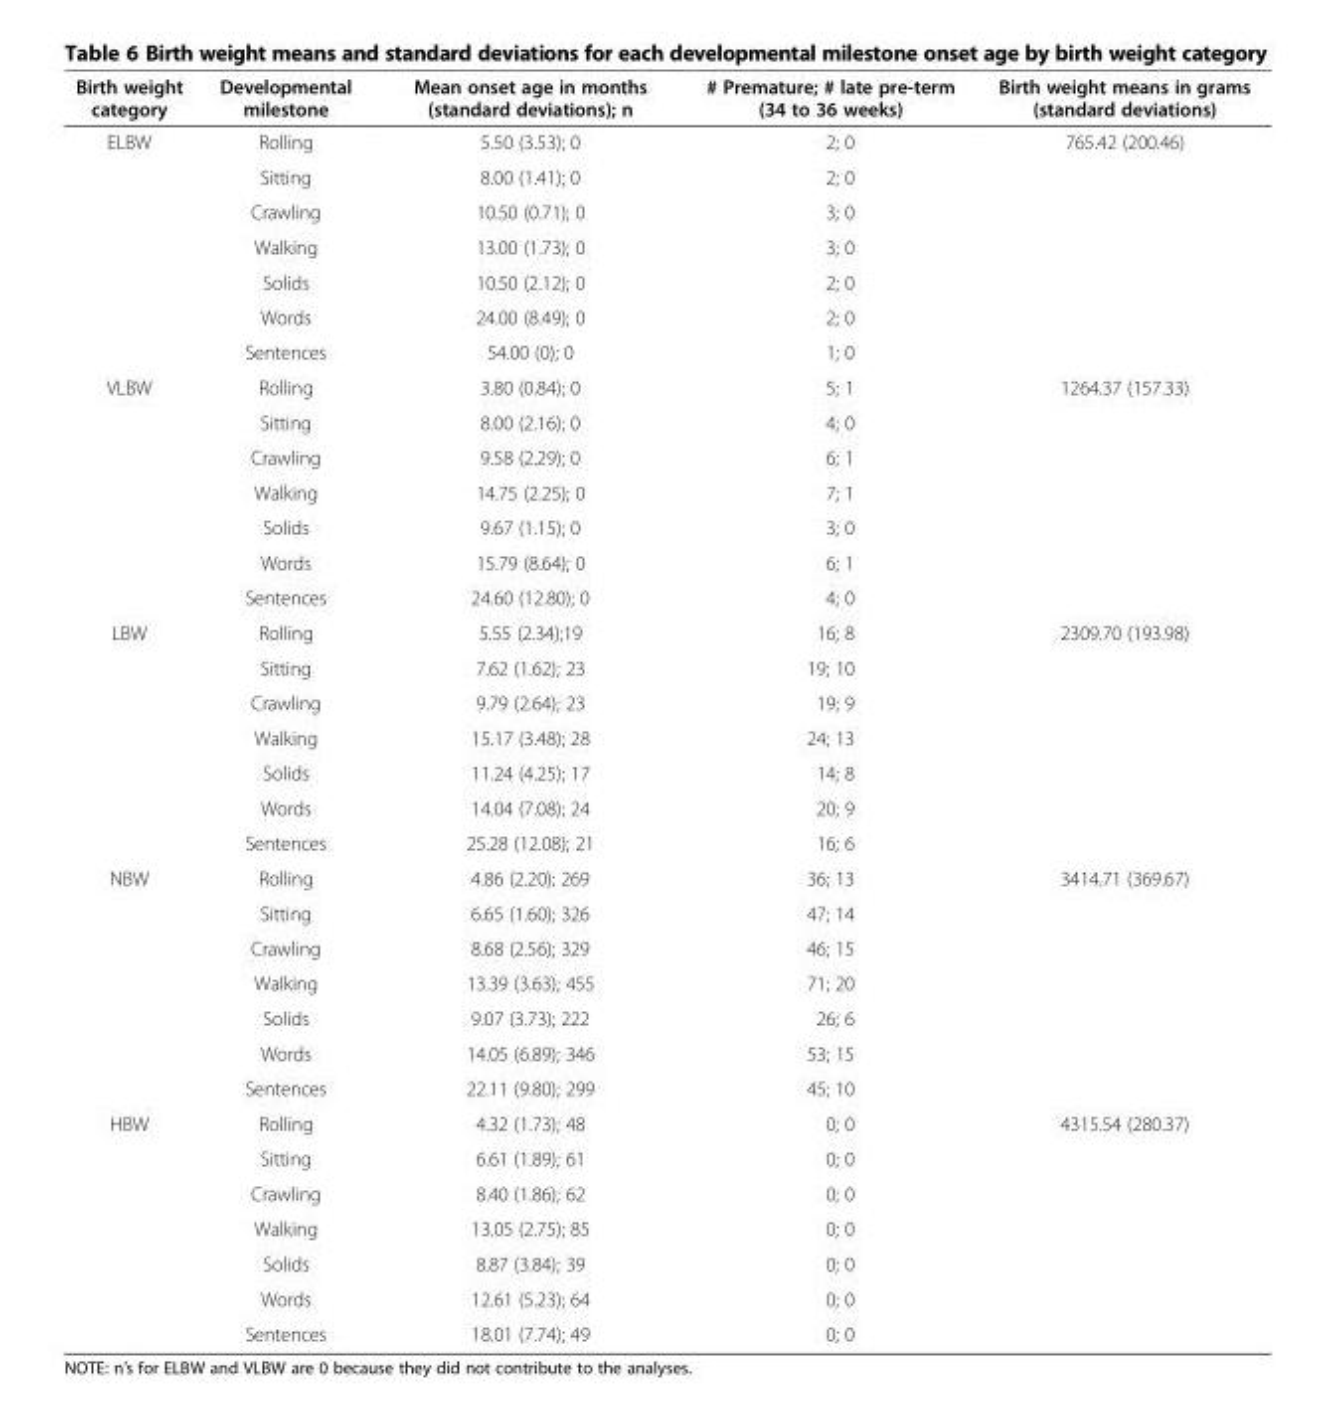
<table><thead><tr><td>Birth weight category</td><td>Developmental milestone</td><td>Mean onset age in months (standard deviations); n</td><td># Premature; # late pre-term (34 to 36 weeks)</td><td>Birth weight means in grams (standard deviations)</td></tr></thead><tbody><tr><td rowspan="7">ELBW</td><td>Rolling</td><td>5.50 (3.53); 0</td><td>2; 0</td><td>765.42 (200.46)</td></tr><tr><td>Sitting</td><td>8.00 (1.41); 0</td><td>2; 0</td><td></td></tr><tr><td>Crawling</td><td>10.50 (0.71); 0</td><td>3; 0</td><td></td></tr><tr><td>Walking</td><td>13.00 (1.73); 0</td><td>3; 0</td><td></td></tr><tr><td>Solids</td><td>10.50 (2.12); 0</td><td>2; 0</td><td></td></tr><tr><td>Words</td><td>24.00 (8.49); 0</td><td>2; 0</td><td></td></tr><tr><td>Sentences</td><td>54.00 (0); 0</td><td>1; 0</td><td></td></tr><tr><td rowspan="7">VLBW</td><td>Rolling</td><td>3.80 (0.84); 0</td><td>5; 1</td><td>1264.37 (157.33)</td></tr><tr><td>Sitting</td><td>8.00 (2.16); 0</td><td>4; 0</td><td></td></tr><tr><td>Crawling</td><td>9.58 (2.29); 0</td><td>6; 1</td><td></td></tr><tr><td>Walking</td><td>14.75 (2.25); 0</td><td>7; 1</td><td></td></tr><tr><td>Solids</td><td>9.67 (1.15); 0</td><td>3; 0</td><td></td></tr><tr><td>Words</td><td>15.79 (8.64); 0</td><td>6; 1</td><td></td></tr><tr><td>Sentences</td><td>24.60 (12.80); 0</td><td>4; 0</td><td></td></tr><tr><td rowspan="7">LBW</td><td>Rolling</td><td>5.55 (2.34);19</td><td>16; 8</td><td>2309.70 (193.98)</td></tr><tr><td>Sitting</td><td>7.62 (1.62); 23</td><td>19; 10</td><td></td></tr><tr><td>Crawling</td><td>9.79 (2.64); 23</td><td>19; 9</td><td></td></tr><tr><td>Walking</td><td>15.17 (3.48); 28</td><td>24; 13</td><td></td></tr><tr><td>Solids</td><td>11.24 (4.25); 17</td><td>14; 8</td><td></td></tr><tr><td>Words</td><td>14.04 (7.08); 24</td><td>20; 9</td><td></td></tr><tr><td>Sentences</td><td>25.28 (12.08); 21</td><td>16; 6</td><td></td></tr><tr><td rowspan="7">NBW</td><td>Rolling</td><td>4.86 (2.20); 269</td><td>36; 13</td><td>3414.71 (369.67)</td></tr><tr><td>Sitting</td><td>6.65 (1.60); 326</td><td>47; 14</td><td></td></tr><tr><td>Crawling</td><td>8.68 (2.56); 329</td><td>46; 15</td><td></td></tr><tr><td>Walking</td><td>13.39 (3.63); 455</td><td>71; 20</td><td></td></tr><tr><td>Solids</td><td>9.07 (3.73); 222</td><td>26; 6</td><td></td></tr><tr><td>Words</td><td>14.05 (6.89); 346</td><td>53; 15</td><td></td></tr><tr><td>Sentences</td><td>22.11 (9.80); 299</td><td>45; 10</td><td></td></tr><tr><td rowspan="7">HBW</td><td>Rolling</td><td>4.32 (1.73); 48</td><td>0; 0</td><td>4315.54 (280.37)</td></tr><tr><td>Sitting</td><td>6.61 (1.89); 61</td><td>0; 0</td><td></td></tr><tr><td>Crawling</td><td>8.40 (1.86); 62</td><td>0; 0</td><td></td></tr><tr><td>Walking</td><td>13.05 (2.75); 85</td><td>0; 0</td><td></td></tr><tr><td>Solids</td><td>8.87 (3.84); 39</td><td>0; 0</td><td></td></tr><tr><td>Words</td><td>12.61 (5.23); 64</td><td>0; 0</td><td></td></tr><tr><td>Sentences</td><td>18.01 (7.74); 49</td><td>0; 0</td><td></td></tr></tbody></table>